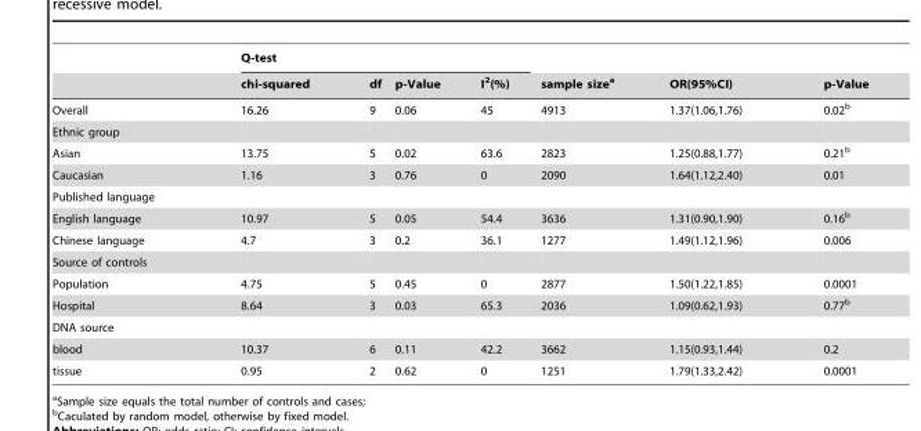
<table><thead><tr><td rowspan="2"></td><td colspan="4">Q-test</td><td rowspan="2">sample size<sup>a</sup></td><td rowspan="2">OR(95%CI)</td><td rowspan="2">p-Value</td></tr><tr><td>chi-squared</td><td>df</td><td>p-Value</td><td>I<sup>2</sup>(%)</td></tr></thead><tbody><tr><td>Overall</td><td>16.26</td><td>9</td><td>0.06</td><td>45</td><td>4913</td><td>1.37(1.06,1.76)</td><td>0.02<sup>b</sup></td></tr><tr><td colspan="8">Ethnic group</td></tr><tr><td>Asian</td><td>13.75</td><td>5</td><td>0.02</td><td>63.6</td><td>2823</td><td>1.25(0.88,1.77)</td><td>0.21<sup>b</sup></td></tr><tr><td>Caucasian</td><td>1.16</td><td>3</td><td>0.76</td><td>0</td><td>2090</td><td>1.64(1.12,2.40)</td><td>0.01</td></tr><tr><td colspan="8">Published language</td></tr><tr><td>English language</td><td>10.97</td><td>5</td><td>0.05</td><td>54.4</td><td>3636</td><td>1.31(0.90,1.90)</td><td>0.16<sup>b</sup></td></tr><tr><td>Chinese language</td><td>4.7</td><td>3</td><td>0.2</td><td>36.1</td><td>1277</td><td>1.49(1.12,1.96)</td><td>0.006</td></tr><tr><td colspan="8">Source of controls</td></tr><tr><td>Population</td><td>4.75</td><td>5</td><td>0.45</td><td>0</td><td>2877</td><td>1.50(1.22,1.85)</td><td>0.0001</td></tr><tr><td>Hospital</td><td>8.64</td><td>3</td><td>0.03</td><td>65.3</td><td>2036</td><td>1.09(0.62,1.93)</td><td>0.77<sup>b</sup></td></tr><tr><td colspan="8">DNA source</td></tr><tr><td>blood</td><td>10.37</td><td>6</td><td>0.11</td><td>42.2</td><td>3662</td><td>1.15(0.93,1.44)</td><td>0.2</td></tr><tr><td>tissue</td><td>0.95</td><td>2</td><td>0.62</td><td>0</td><td>1251</td><td>1.79(1.33,2.42)</td><td>0.0001</td></tr></tbody></table>